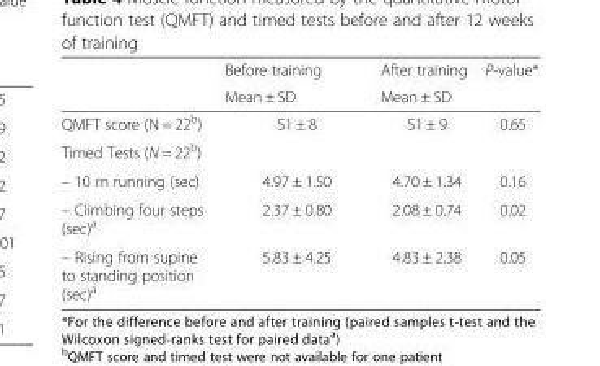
<table><thead><tr><td rowspan="2"></td><td rowspan="2">Before training Mean ± SD</td><td rowspan="2">After training Mean ± SD</td><td rowspan="2">P-value*</td></tr><tr></tr></thead><tbody><tr><td>QMFT score (N = 22<sup>b</sup>)</td><td>51 ± 8</td><td>51 ± 9</td><td>0.65</td></tr><tr><td colspan="4">Timed Tests (N = 22<sup>b</sup>)</td></tr><tr><td>– 10 m running (sec)</td><td>4.97 ± 1.50</td><td>4.70 ± 1.34</td><td>0.16</td></tr><tr><td>– Climbing four steps (sec)<sup>a</sup></td><td>2.37 ± 0.80</td><td>2.08 ± 0.74</td><td>0.02</td></tr><tr><td>– Rising from supine to standing position (sec)<sup>a</sup></td><td>5.83 ± 4.25</td><td>4.83 ± 2.38</td><td>0.05</td></tr></tbody></table>